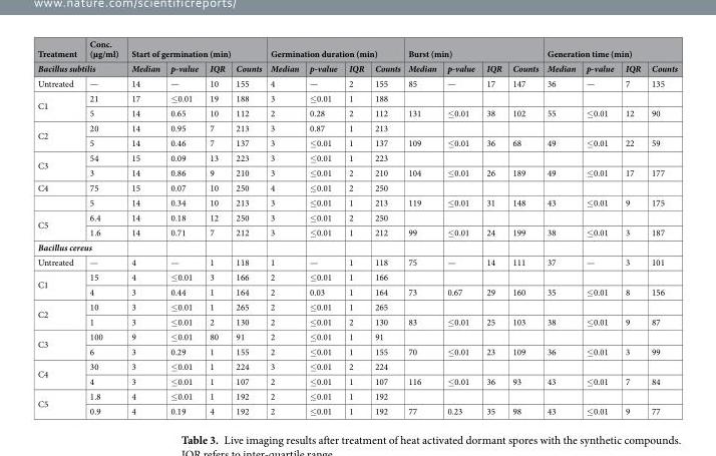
<table><thead><tr><td>Treatment</td><td>Conc. (µg/ml)</td><td colspan="4">Start of germination (min)</td><td colspan="4">Germination duration (min)</td><td colspan="4">Burst (min)</td><td colspan="4">Generation time (min)</td></tr><tr><td colspan="2">Bacillus subtilis</td><td>Median</td><td>p-value</td><td>IQR</td><td>Counts</td><td>Median</td><td>p-value</td><td>IQR</td><td>Counts</td><td>Median</td><td>p-value</td><td>IQR</td><td>Counts</td><td>Median</td><td>p-value</td><td>IQR</td><td>Counts</td></tr></thead><tbody><tr><td>Untreated</td><td>—</td><td>14</td><td>—</td><td>10</td><td>155</td><td>4</td><td>—</td><td>2</td><td>155</td><td>85</td><td>—</td><td>17</td><td>147</td><td>36</td><td>—</td><td>7</td><td>135</td></tr><tr><td rowspan="2">C1</td><td>21</td><td>17</td><td>≤0.01</td><td>19</td><td>188</td><td>3</td><td>≤0.01</td><td>1</td><td>188</td><td></td><td></td><td></td><td></td><td></td><td></td><td></td><td></td></tr><tr><td>5</td><td>14</td><td>0.65</td><td>10</td><td>112</td><td>2</td><td>0.28</td><td>2</td><td>112</td><td>131</td><td>≤0.01</td><td>38</td><td>102</td><td>55</td><td>≤0.01</td><td>12</td><td>90</td></tr><tr><td rowspan="2">C2</td><td>20</td><td>14</td><td>0.95</td><td>7</td><td>213</td><td>3</td><td>0.87</td><td>1</td><td>213</td><td></td><td></td><td></td><td></td><td></td><td></td><td></td><td></td></tr><tr><td>5</td><td>14</td><td>0.46</td><td>7</td><td>137</td><td>3</td><td>≤0.01</td><td>1</td><td>137</td><td>109</td><td>≤0.01</td><td>36</td><td>68</td><td>49</td><td>≤0.01</td><td>22</td><td>59</td></tr><tr><td rowspan="2">C3</td><td>54</td><td>15</td><td>0.09</td><td>13</td><td>223</td><td>3</td><td>≤0.01</td><td>1</td><td>223</td><td></td><td></td><td></td><td></td><td></td><td></td><td></td><td></td></tr><tr><td>3</td><td>14</td><td>0.86</td><td>9</td><td>210</td><td>3</td><td>≤0.01</td><td>2</td><td>210</td><td>104</td><td>≤0.01</td><td>26</td><td>189</td><td>49</td><td>≤0.01</td><td>17</td><td>177</td></tr><tr><td rowspan="2">C4</td><td>75</td><td>15</td><td>0.07</td><td>10</td><td>250</td><td>4</td><td>≤0.01</td><td>2</td><td>250</td><td></td><td></td><td></td><td></td><td></td><td></td><td></td><td></td></tr><tr><td>5</td><td>14</td><td>0.34</td><td>10</td><td>213</td><td>3</td><td>≤0.01</td><td>1</td><td>213</td><td>119</td><td>≤0.01</td><td>31</td><td>148</td><td>43</td><td>≤0.01</td><td>9</td><td>175</td></tr><tr><td rowspan="2">C5</td><td>6.4</td><td>14</td><td>0.18</td><td>12</td><td>250</td><td>3</td><td>≤0.01</td><td>2</td><td>250</td><td></td><td></td><td></td><td></td><td></td><td></td><td></td><td></td></tr><tr><td>1.6</td><td>14</td><td>0.71</td><td>7</td><td>212</td><td>3</td><td>≤0.01</td><td>1</td><td>212</td><td>99</td><td>≤0.01</td><td>24</td><td>199</td><td>38</td><td>≤0.01</td><td>3</td><td>187</td></tr><tr><td colspan="18">Bacillus cereus</td></tr><tr><td>Untreated</td><td>—</td><td>4</td><td>—</td><td>1</td><td>118</td><td>1</td><td>—</td><td>1</td><td>118</td><td>75</td><td>—</td><td>14</td><td>111</td><td>37</td><td>—</td><td>3</td><td>101</td></tr><tr><td rowspan="2">C1</td><td>15</td><td>4</td><td>≤0.01</td><td>3</td><td>166</td><td>2</td><td>≤0.01</td><td>1</td><td>166</td><td></td><td></td><td></td><td></td><td></td><td></td><td></td><td></td></tr><tr><td>4</td><td>3</td><td>0.44</td><td>1</td><td>164</td><td>2</td><td>0.03</td><td>1</td><td>164</td><td>73</td><td>0.67</td><td>29</td><td>160</td><td>35</td><td>≤0.01</td><td>8</td><td>156</td></tr><tr><td rowspan="2">C2</td><td>10</td><td>3</td><td>≤0.01</td><td>1</td><td>265</td><td>2</td><td>≤0.01</td><td>1</td><td>265</td><td></td><td></td><td></td><td></td><td></td><td></td><td></td><td></td></tr><tr><td>1</td><td>3</td><td>≤0.01</td><td>2</td><td>130</td><td>2</td><td>≤0.01</td><td>2</td><td>130</td><td>83</td><td>≤0.01</td><td>25</td><td>103</td><td>38</td><td>≤0.01</td><td>9</td><td>87</td></tr><tr><td rowspan="2">C3</td><td>100</td><td>9</td><td>≤0.01</td><td>80</td><td>91</td><td>2</td><td>≤0.01</td><td>1</td><td>91</td><td></td><td></td><td></td><td></td><td></td><td></td><td></td><td></td></tr><tr><td>6</td><td>3</td><td>0.29</td><td>1</td><td>155</td><td>2</td><td>≤0.01</td><td>1</td><td>155</td><td>70</td><td>≤0.01</td><td>23</td><td>109</td><td>36</td><td>≤0.01</td><td>3</td><td>99</td></tr><tr><td rowspan="2">C4</td><td>30</td><td>3</td><td>≤0.01</td><td>1</td><td>224</td><td>3</td><td>≤0.01</td><td>2</td><td>224</td><td></td><td></td><td></td><td></td><td></td><td></td><td></td><td></td></tr><tr><td>4</td><td>3</td><td>≤0.01</td><td>1</td><td>107</td><td>2</td><td>≤0.01</td><td>1</td><td>107</td><td>116</td><td>≤0.01</td><td>36</td><td>93</td><td>43</td><td>≤0.01</td><td>7</td><td>84</td></tr><tr><td rowspan="2">C5</td><td>1.8</td><td>4</td><td>≤0.01</td><td>1</td><td>192</td><td>2</td><td>≤0.01</td><td>1</td><td>192</td><td></td><td></td><td></td><td></td><td></td><td></td><td></td><td></td></tr><tr><td>0.9</td><td>4</td><td>0.19</td><td>4</td><td>192</td><td>2</td><td>≤0.01</td><td>1</td><td>192</td><td>77</td><td>0.23</td><td>35</td><td>98</td><td>43</td><td>≤0.01</td><td>9</td><td>77</td></tr></tbody></table>